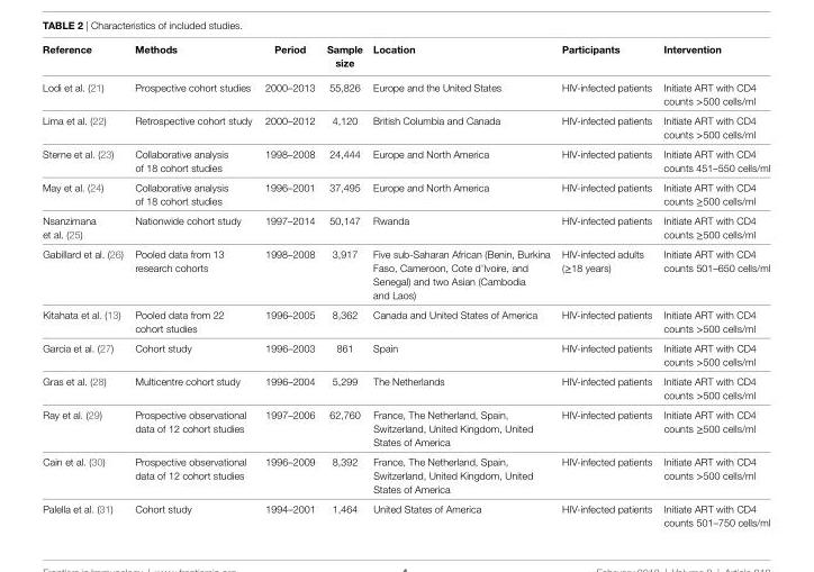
<table><thead><tr><td>Reference</td><td>methods</td><td>Period</td><td>Sample size</td><td>location</td><td>Participants</td><td>intervention</td></tr></thead><tbody><tr><td>Lodi et al. (21)</td><td>Prospective cohort studies</td><td>2000–2013</td><td>55,826</td><td>Europe and the United States</td><td>HIV-infected patients</td><td>Initiate ART with CD4 counts &gt;500 cells/ml</td></tr><tr><td>Lima et al. (22)</td><td>Retrospective cohort study</td><td>2000–2012</td><td>4,120</td><td>British Columbia and Canada</td><td>HIV-infected patients</td><td>Initiate ART with CD4 counts &gt;500 cells/ml</td></tr><tr><td>Sterne et al. (23)</td><td>Collaborative analysis of 18 cohort studies</td><td>1998–2008</td><td>24,444</td><td>Europe and North America</td><td>HIV-infected patients</td><td>Initiate ART with CD4 counts 451–550 cells/ml</td></tr><tr><td>May et al. (24)</td><td>Collaborative analysis of 18 cohort studies</td><td>1996–2001</td><td>37,495</td><td>Europe and North America</td><td>HIV-infected patients</td><td>Initiate ART with CD4 counts ≥500 cells/ml</td></tr><tr><td>Nsanzimana et al. (25)</td><td>Nationwide cohort study</td><td>1997–2014</td><td>50,147</td><td>Rwanda</td><td>HIV-infected patients</td><td>Initiate ART with CD4 counts ≥500 cells/ml</td></tr><tr><td>Gabillard et al. (26)</td><td>Pooled data from 13 research cohorts</td><td>1998–2008</td><td>3,917</td><td>Five sub-Saharan African (Benin, Burkina Faso, Cameroon, Cote d’Ivoire, and Senegal) and two Asian (Cambodia and Laos)</td><td>HIV-infected adults (≥18 years)</td><td>Initiate ART with CD4 counts 501–650 cells/ml</td></tr><tr><td>Kitahata et al. (13)</td><td>Pooled data from 22 cohort studies</td><td>1996–2005</td><td>8,362</td><td>Canada and United States of America</td><td>HIV-infected patients</td><td>Initiate ART with CD4 counts &gt;500 cells/ml</td></tr><tr><td>Garcia et al. (27)</td><td>Cohort study</td><td>1996–2003</td><td>861</td><td>Spain</td><td>HIV-infected patients</td><td>Initiate ART with CD4 counts &gt;500 cells/ml</td></tr><tr><td>Gras et al. (28)</td><td>Multicentre cohort study</td><td>1996–2004</td><td>5,299</td><td>The Netherlands</td><td>HIV-infected patients</td><td>Initiate ART with CD4 counts &gt;500 cells/ml</td></tr><tr><td>Ray et al. (29)</td><td>Prospective observational data of 12 cohort studies</td><td>1997–2006</td><td>62,760</td><td>France, The Netherland, Spain, Switzerland, United Kingdom, United States of America</td><td>HIV-infected patients</td><td>Initiate ART with CD4 counts ≥500 cells/ml</td></tr><tr><td>Cain et al. (30)</td><td>Prospective observational data of 12 cohort studies</td><td>1996–2009</td><td>8,392</td><td>France, The Netherland, Spain, Switzerland, United Kingdom, United States of America</td><td>HIV-infected patients</td><td>Initiate ART with CD4 counts &gt;500 cells/ml</td></tr><tr><td>Palella et al. (31)</td><td>Cohort study</td><td>1994–2001</td><td>1,464</td><td>United States of America</td><td>HIV-infected patients</td><td>Initiate ART with CD4 counts 501–750 cells/ml</td></tr></tbody></table>